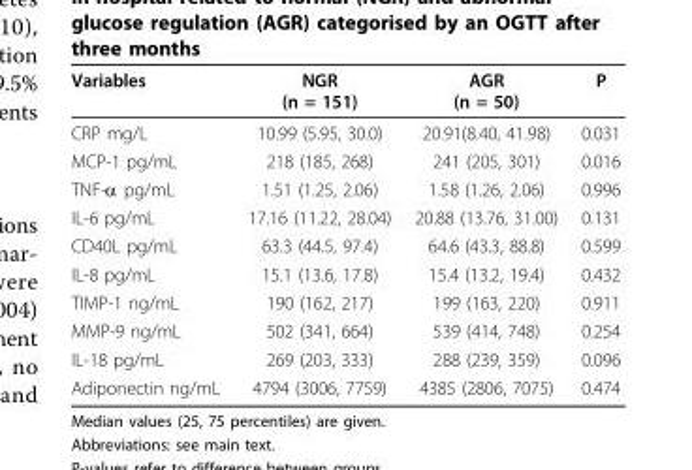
<table><thead><tr><td>Variables</td><td>NGR (n = 151)</td><td>AGR (n = 50)</td><td>P</td></tr></thead><tbody><tr><td>CRP mg/L</td><td>10.99 (5.95, 30.0)</td><td>20.91(8.40, 41.98)</td><td>0.031</td></tr><tr><td>MCP-1 pg/mL</td><td>218 (185, 268)</td><td>241 (205, 301)</td><td>0.016</td></tr><tr><td>TNF-α pg/mL</td><td>1.51 (1.25, 2.06)</td><td>1.58 (1.26, 2.06)</td><td>0.996</td></tr><tr><td>IL-6 pg/mL</td><td>17.16 (11.22, 28.04)</td><td>20.88 (13.76, 31.00)</td><td>0.131</td></tr><tr><td>CD40L pg/mL</td><td>63.3 (44.5, 97.4)</td><td>64.6 (43.3, 88.8)</td><td>0.599</td></tr><tr><td>IL-8 pg/mL</td><td>15.1 (13.6, 17.8)</td><td>15.4 (13.2, 19.4)</td><td>0.432</td></tr><tr><td>TIMP-1 ng/mL</td><td>190 (162, 217)</td><td>199 (163, 220)</td><td>0.911</td></tr><tr><td>MMP-9 ng/mL</td><td>502 (341, 664)</td><td>539 (414, 748)</td><td>0.254</td></tr><tr><td>IL-18 pg/mL</td><td>269 (203, 333)</td><td>288 (239, 359)</td><td>0.096</td></tr><tr><td>Adiponectin ng/mL</td><td>4794 (3006, 7759)</td><td>4385 (2806, 7075)</td><td>0.474</td></tr></tbody></table>